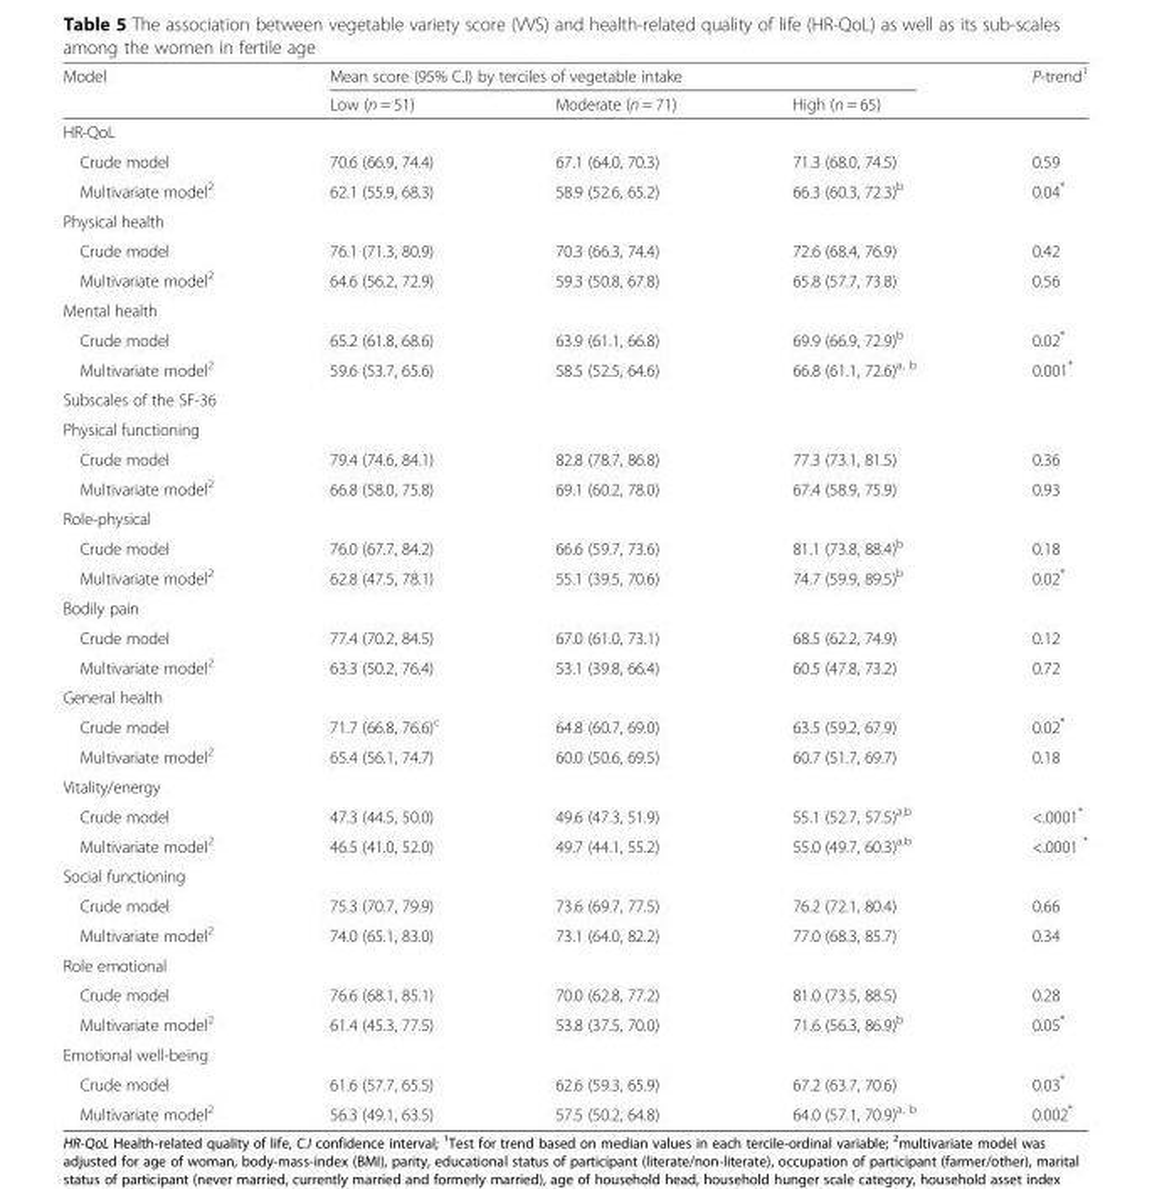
<table><thead><tr><td rowspan="2">Model</td><td colspan="3">Mean score (95% C.I) by terciles of vegetable intake</td><td rowspan="2">P-trend<sup>1</sup></td></tr><tr><td>Low (n = 51)</td><td>Moderate (n = 71)</td><td>High (n = 65)</td></tr></thead><tbody><tr><td colspan="5">HR-QoL</td></tr><tr><td>Crude model</td><td>70.6 (66.9, 74.4)</td><td>67.1 (64.0, 70.3)</td><td>71.3 (68.0, 74.5)</td><td>0.59</td></tr><tr><td>Multivariate model<sup>2</sup></td><td>62.1 (55.9, 68.3)</td><td>58.9 (52.6, 65.2)</td><td>66.3 (60.3, 72.3)<sup>b</sup></td><td>0.04*</td></tr><tr><td colspan="5">Physical health</td></tr><tr><td>Crude model</td><td>76.1 (71.3, 80.9)</td><td>70.3 (66.3, 74.4)</td><td>72.6 (68.4, 76.9)</td><td>0.42</td></tr><tr><td>Multivariate model<sup>2</sup></td><td>64.6 (56.2, 72.9)</td><td>59.3 (50.8, 67.8)</td><td>65.8 (57.7, 73.8)</td><td>0.56</td></tr><tr><td colspan="5">Mental health</td></tr><tr><td>Crude model</td><td>65.2 (61.8, 68.6)</td><td>63.9 (61.1, 66.8)</td><td>69.9 (66.9, 72.9)<sup>b</sup></td><td>0.02*</td></tr><tr><td>Multivariate model<sup>2</sup></td><td>59.6 (53.7, 65.6)</td><td>58.5 (52.5, 64.6)</td><td>66.8 (61.1, 72.6)<sup>a, b</sup></td><td>0.001*</td></tr><tr><td colspan="5">Subscales of the SF-36</td></tr><tr><td colspan="5">Physical functioning</td></tr><tr><td>Crude model</td><td>79.4 (74.6, 84.1)</td><td>82.8 (78.7, 86.8)</td><td>77.3 (73.1, 81.5)</td><td>0.36</td></tr><tr><td>Multivariate model<sup>2</sup></td><td>66.8 (58.0, 75.8)</td><td>69.1 (60.2, 78.0)</td><td>67.4 (58.9, 75.9)</td><td>0.93</td></tr><tr><td colspan="5">Role-physical</td></tr><tr><td>Crude model</td><td>76.0 (67.7, 84.2)</td><td>66.6 (59.7, 73.6)</td><td>81.1 (73.8, 88.4)<sup>b</sup></td><td>0.18</td></tr><tr><td>Multivariate model<sup>2</sup></td><td>62.8 (47.5, 78.1)</td><td>55.1 (39.5, 70.6)</td><td>74.7 (59.9, 89.5)<sup>b</sup></td><td>0.02*</td></tr><tr><td colspan="5">Bodily pain</td></tr><tr><td>Crude model</td><td>77.4 (70.2, 84.5)</td><td>67.0 (61.0, 73.1)</td><td>68.5 (62.2, 74.9)</td><td>0.12</td></tr><tr><td>Multivariate model<sup>2</sup></td><td>63.3 (50.2, 76.4)</td><td>53.1 (39.8, 66.4)</td><td>60.5 (47.8, 73.2)</td><td>0.72</td></tr><tr><td colspan="5">General health</td></tr><tr><td>Crude model</td><td>71.7 (66.8, 76.6)<sup>c</sup></td><td>64.8 (60.7, 69.0)</td><td>63.5 (59.2, 67.9)</td><td>0.02*</td></tr><tr><td>Multivariate model<sup>2</sup></td><td>65.4 (56.1, 74.7)</td><td>60.0 (50.6, 69.5)</td><td>60.7 (51.7, 69.7)</td><td>0.18</td></tr><tr><td colspan="5">Vitality/energy</td></tr><tr><td>Crude model</td><td>47.3 (44.5, 50.0)</td><td>49.6 (47.3, 51.9)</td><td>55.1 (52.7, 57.5)<sup>a,b</sup></td><td>&lt;.0001*</td></tr><tr><td>Multivariate model<sup>2</sup></td><td>46.5 (41.0, 52.0)</td><td>49.7 (44.1, 55.2)</td><td>55.0 (49.7, 60.3)<sup>a,b</sup></td><td>&lt;.0001 *</td></tr><tr><td colspan="5">Social functioning</td></tr><tr><td>Crude model</td><td>75.3 (70.7, 79.9)</td><td>73.6 (69.7, 77.5)</td><td>76.2 (72.1, 80.4)</td><td>0.66</td></tr><tr><td>Multivariate model<sup>2</sup></td><td>74.0 (65.1, 83.0)</td><td>73.1 (64.0, 82.2)</td><td>77.0 (68.3, 85.7)</td><td>0.34</td></tr><tr><td colspan="5">Role emotional</td></tr><tr><td>Crude model</td><td>76.6 (68.1, 85.1)</td><td>70.0 (62.8, 77.2)</td><td>81.0 (73.5, 88.5)</td><td>0.28</td></tr><tr><td>Multivariate model<sup>2</sup></td><td>61.4 (45.3, 77.5)</td><td>53.8 (37.5, 70.0)</td><td>71.6 (56.3, 86.9)<sup>b</sup></td><td>0.05*</td></tr><tr><td colspan="5">Emotional well-being</td></tr><tr><td>Crude model</td><td>61.6 (57.7, 65.5)</td><td>62.6 (59.3, 65.9)</td><td>67.2 (63.7, 70.6)</td><td>0.03*</td></tr><tr><td>Multivariate model<sup>2</sup></td><td>56.3 (49.1, 63.5)</td><td>57.5 (50.2, 64.8)</td><td>64.0 (57.1, 70.9)<sup>a, b</sup></td><td>0.002*</td></tr></tbody></table>